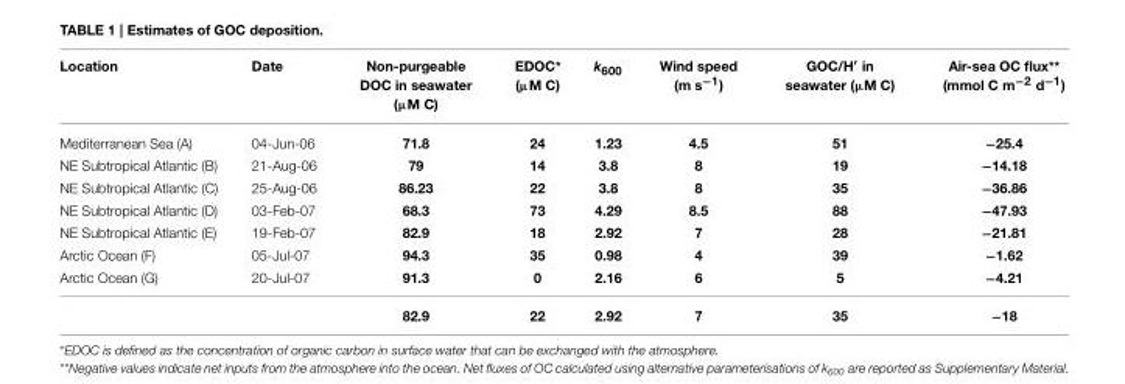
<table><thead><tr><td>Location</td><td>Date</td><td>Non-purgeable DOC in seawater (µM C)</td><td>EDOC* (µM C)</td><td>k<sub>600</sub></td><td>Wind speed (m s<sup>−1</sup>)</td><td>GOC/H′ in seawater (µM C)</td><td>Air-sea OC flux** (mmol C m<sup>−2</sup> d<sup>−1</sup>)</td></tr></thead><tbody><tr><td>Mediterranean Sea (A)</td><td>04-Jun-06</td><td>71.8</td><td>24</td><td>1.23</td><td>4.5</td><td>51</td><td>−25.4</td></tr><tr><td>NE Subtropical Atlantic (B)</td><td>21-Aug-06</td><td>79</td><td>14</td><td>3.8</td><td>8</td><td>19</td><td>−14.18</td></tr><tr><td>NE Subtropical Atlantic (C)</td><td>25-Aug-06</td><td>86.23</td><td>22</td><td>3.8</td><td>8</td><td>35</td><td>−36.86</td></tr><tr><td>NE Subtropical Atlantic (D)</td><td>03-Feb-07</td><td>68.3</td><td>73</td><td>4.29</td><td>8.5</td><td>88</td><td>−47.93</td></tr><tr><td>NE Subtropical Atlantic (E)</td><td>19-Feb-07</td><td>82.9</td><td>18</td><td>2.92</td><td>7</td><td>28</td><td>−21.81</td></tr><tr><td>Arctic Ocean (F)</td><td>05-Jul-07</td><td>94.3</td><td>35</td><td>0.98</td><td>4</td><td>39</td><td>−1.62</td></tr><tr><td rowspan="2">Arctic Ocean (G)</td><td>20-Jul-07</td><td>91.3</td><td>0</td><td>2.16</td><td>6</td><td>5</td><td>−4.21</td></tr><tr><td></td><td>82.9</td><td>22</td><td>2.92</td><td>7</td><td>35</td><td>−18</td></tr></tbody></table>